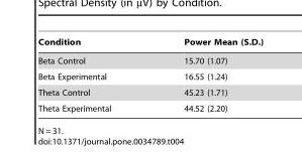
<table><thead><tr><td>Condition</td><td>Power Mean (S.D.)</td></tr></thead><tbody><tr><td>Beta Control</td><td>15.70 (1.07)</td></tr><tr><td>Beta Experimental</td><td>16.55 (1.24)</td></tr><tr><td>Theta Control</td><td>45.23 (1.71)</td></tr><tr><td>Theta Experimental</td><td>44.52 (2.20)</td></tr></tbody></table>